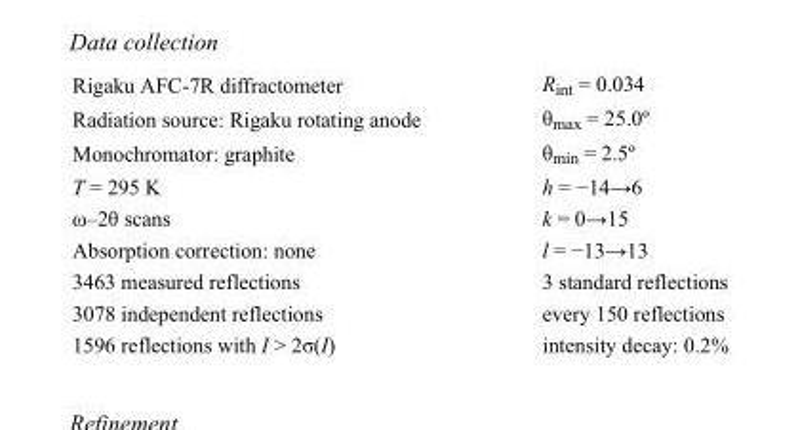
<table><tbody><tr><td>Rigaku AFC-7R diffractometer</td><td>R<sub>int</sub> = 0.034</td></tr><tr><td>Radiation source: Rigaku rotating anode</td><td>θ<sub>max</sub> = 25.0º</td></tr><tr><td>Monochromator: graphite</td><td>θ<sub>min</sub> = 2.5º</td></tr><tr><td>T = 295 K</td><td>h = −14→6</td></tr><tr><td>ω–2θ scans</td><td>k = 0→15</td></tr><tr><td>Absorption correction: none</td><td>l = −13→13</td></tr><tr><td>3463 measured reflections</td><td>3 standard reflections</td></tr><tr><td>3078 independent reflections</td><td>every 150 reflections</td></tr><tr><td>1596 reflections with I &gt; 2σ(I)</td><td>intensity decay: 0.2%</td></tr></tbody></table>